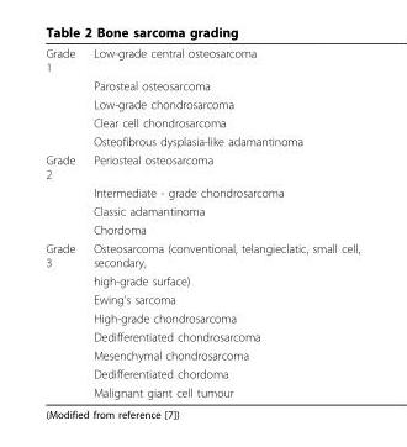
<table><tbody><tr><td rowspan="5">Grade 1</td><td>Low-grade central osteosarcoma</td></tr><tr><td>Parosteal osteosarcoma</td></tr><tr><td>Low-grade chondrosarcoma</td></tr><tr><td>Clear cell chondrosarcoma</td></tr><tr><td>Osteofibrous dysplasia-like adamantinoma</td></tr><tr><td rowspan="4">Grade 2</td><td>Periosteal osteosarcoma</td></tr><tr><td>Intermediate - grade chondrosarcoma</td></tr><tr><td>Classic adamantinoma</td></tr><tr><td>Chordoma</td></tr><tr><td rowspan="8">Grade 3</td><td>Osteosarcoma (conventional, telangieclatic, small cell, secondary,</td></tr><tr><td>high-grade surface)</td></tr><tr><td>Ewing’s sarcoma</td></tr><tr><td>High-grade chondrosarcoma</td></tr><tr><td>Dedifferentiated chondrosarcoma</td></tr><tr><td>Mesenchymal chondrosarcoma</td></tr><tr><td>Dedifferentiated chordoma</td></tr><tr><td>Malignant giant cell tumour</td></tr></tbody></table>